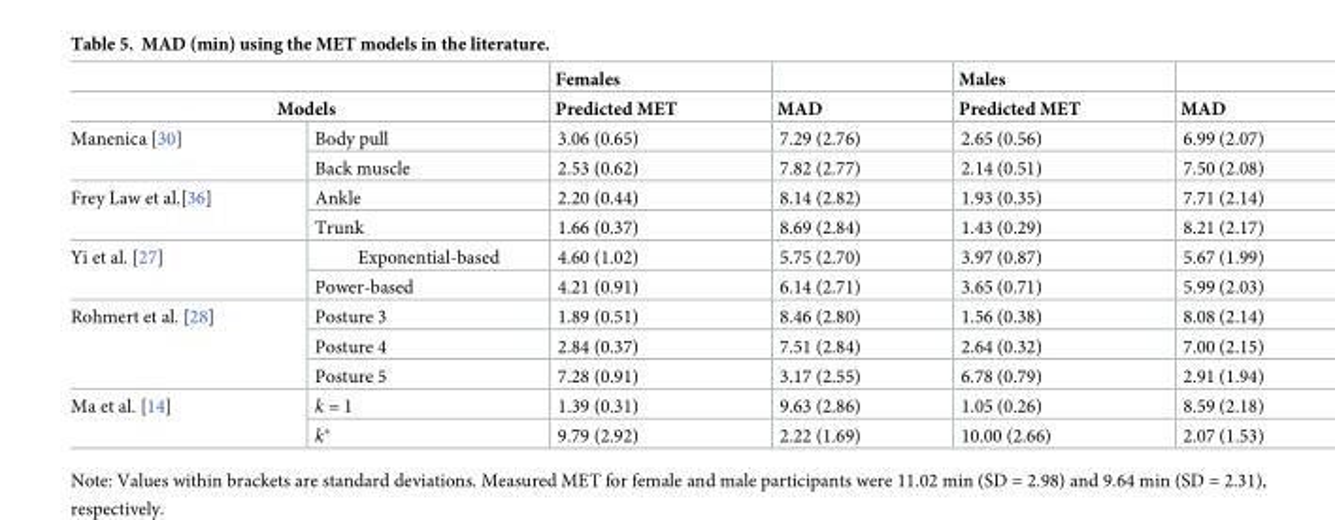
<table><thead><tr><td></td><td></td><td rowspan="2">Females Predicted MET</td><td rowspan="2">MAD</td><td rowspan="2">Males Predicted MET</td><td rowspan="2">MAD</td></tr><tr><td colspan="2">Models</td></tr></thead><tbody><tr><td rowspan="2">Manenica [30]</td><td>Body pull</td><td>3.06 (0.65)</td><td>7.29 (2.76)</td><td>2.65 (0.56)</td><td>6.99 (2.07)</td></tr><tr><td>Back muscle</td><td>2.53 (0.62)</td><td>7.82 (2.77)</td><td>2.14 (0.51)</td><td>7.50 (2.08)</td></tr><tr><td rowspan="2">Frey Law et al.[36]</td><td>Ankle</td><td>2.20 (0.44)</td><td>8.14 (2.82)</td><td>1.93 (0.35)</td><td>7.71 (2.14)</td></tr><tr><td>Trunk</td><td>1.66 (0.37)</td><td>8.69 (2.84)</td><td>1.43 (0.29)</td><td>8.21 (2.17)</td></tr><tr><td rowspan="2">Yi et al. [27]</td><td>Exponential-based</td><td>4.60 (1.02)</td><td>5.75 (2.70)</td><td>3.97 (0.87)</td><td>5.67 (1.99)</td></tr><tr><td>Power-based</td><td>4.21 (0.91)</td><td>6.14 (2.71)</td><td>3.65 (0.71)</td><td>5.99 (2.03)</td></tr><tr><td rowspan="3">Rohmert et al. [28]</td><td>Posture 3</td><td>1.89 (0.51)</td><td>8.46 (2.80)</td><td>1.56 (0.38)</td><td>8.08 (2.14)</td></tr><tr><td>Posture 4</td><td>2.84 (0.37)</td><td>7.51 (2.84)</td><td>2.64 (0.32)</td><td>7.00 (2.15)</td></tr><tr><td>Posture 5</td><td>7.28 (0.91)</td><td>3.17 (2.55)</td><td>6.78 (0.79)</td><td>2.91 (1.94)</td></tr><tr><td rowspan="2">Ma et al. [14]</td><td>k = 1</td><td>1.39 (0.31)</td><td>9.63 (2.86)</td><td>1.05 (0.26)</td><td>8.59 (2.18)</td></tr><tr><td>k*</td><td>9.79 (2.92)</td><td>2.22 (1.69)</td><td>10.00 (2.66)</td><td>2.07 (1.53)</td></tr></tbody></table>